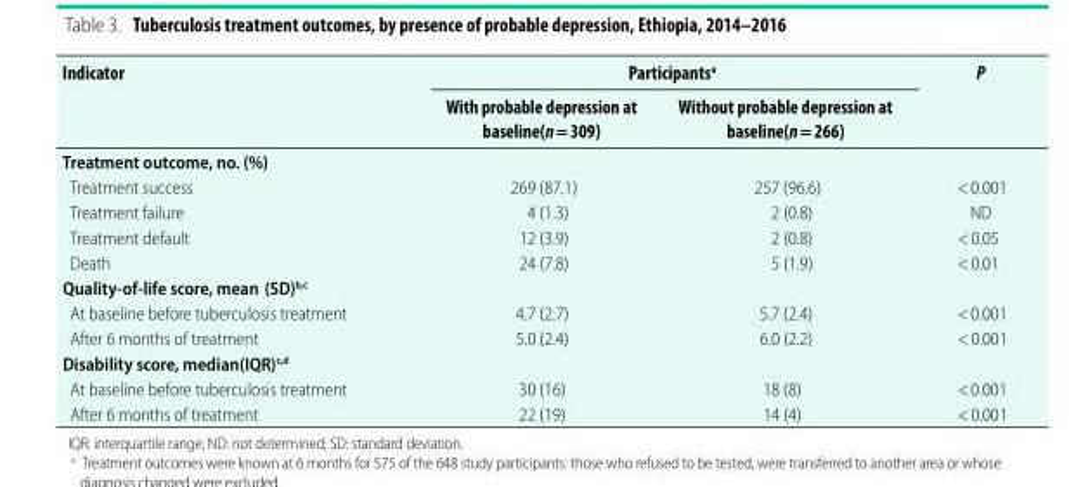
<table><thead><tr><td rowspan="2">Indicator</td><td colspan="2">Participants<sup>a</sup></td><td rowspan="2">P</td></tr><tr><td>With probable depression at baseline(n = 309)</td><td>Without probable depression at baseline(n = 266)</td></tr></thead><tbody><tr><td colspan="4">Treatment outcome, no. (%)</td></tr><tr><td>Treatment success</td><td>269 (87.1)</td><td>257 (96.6)</td><td>&lt; 0.001</td></tr><tr><td>Treatment failure</td><td>4 (1.3)</td><td>2 (0.8)</td><td>ND</td></tr><tr><td>Treatment default</td><td>12 (3.9)</td><td>2 (0.8)</td><td>&lt; 0.05</td></tr><tr><td>Death</td><td>24 (7.8)</td><td>5 (1.9)</td><td>&lt; 0.01</td></tr><tr><td colspan="4">Quality-of-life score, mean (SD)<sup>b,c</sup></td></tr><tr><td>At baseline before tuberculosis treatment</td><td>4.7 (2.7)</td><td>5.7 (2.4)</td><td>&lt; 0.001</td></tr><tr><td>After 6 months of treatment</td><td>5.0 (2.4)</td><td>6.0 (2.2)</td><td>&lt; 0.001</td></tr><tr><td colspan="4">Disability score, median(IQR)<sup>c,d</sup></td></tr><tr><td>At baseline before tuberculosis treatment</td><td>30 (16)</td><td>18 (8)</td><td>&lt; 0.001</td></tr><tr><td>After 6 months of treatment</td><td>22 (19)</td><td>14 (4)</td><td>&lt; 0.001</td></tr></tbody></table>